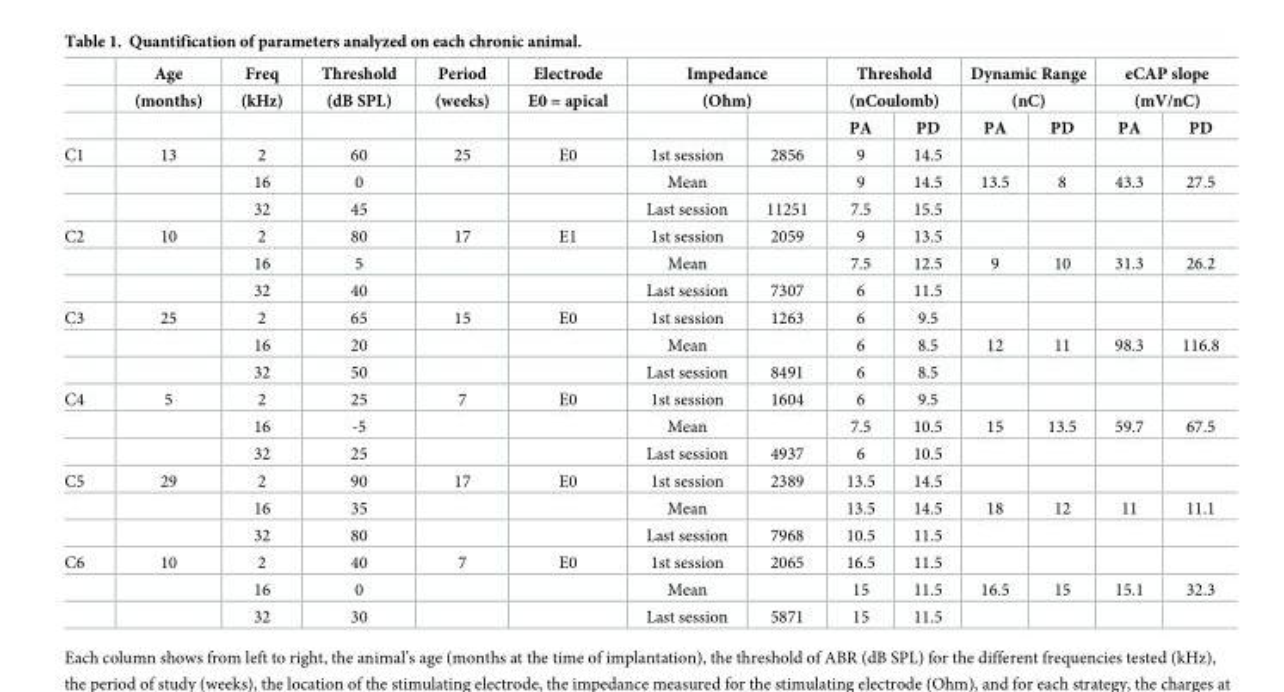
<table><thead><tr><td rowspan="3"></td><td rowspan="3">Age (months)</td><td rowspan="3">Freq (kHz)</td><td rowspan="3">Threshold (dB SPL)</td><td rowspan="3">Period (weeks)</td><td rowspan="3">Electrode E0 = apical</td><td rowspan="2" colspan="2">Impedance (Ohm)</td><td rowspan="2" colspan="2">Threshold (nCoulomb)</td><td rowspan="2" colspan="2">Dynamic Range (nC)</td><td rowspan="2" colspan="2">eCAP slope (mV/nC)</td></tr><tr></tr><tr><td></td><td></td><td>PA</td><td>PD</td><td>PA</td><td>PD</td><td>PA</td><td>PD</td></tr></thead><tbody><tr><td rowspan="3">C1</td><td>13</td><td>2</td><td>60</td><td>25</td><td>E0</td><td>1st session</td><td>2856</td><td>9</td><td>14.5</td><td></td><td></td><td></td><td></td></tr><tr><td></td><td>16</td><td>0</td><td></td><td></td><td>Mean</td><td></td><td>9</td><td>14.5</td><td>13.5</td><td>8</td><td>43.3</td><td>27.5</td></tr><tr><td></td><td>32</td><td>45</td><td></td><td></td><td>Last session</td><td>11251</td><td>7.5</td><td>15.5</td><td></td><td></td><td></td><td></td></tr><tr><td rowspan="3">C2</td><td>10</td><td>2</td><td>80</td><td>17</td><td>E1</td><td>1st session</td><td>2059</td><td>9</td><td>13.5</td><td></td><td></td><td></td><td></td></tr><tr><td></td><td>16</td><td>5</td><td></td><td></td><td>Mean</td><td></td><td>7.5</td><td>12.5</td><td>9</td><td>10</td><td>31.3</td><td>26.2</td></tr><tr><td></td><td>32</td><td>40</td><td></td><td></td><td>Last session</td><td>7307</td><td>6</td><td>11.5</td><td></td><td></td><td></td><td></td></tr><tr><td rowspan="3">C3</td><td>25</td><td>2</td><td>65</td><td>15</td><td>E0</td><td>1st session</td><td>1263</td><td>6</td><td>9.5</td><td></td><td></td><td></td><td></td></tr><tr><td></td><td>16</td><td>20</td><td></td><td></td><td>Mean</td><td></td><td>6</td><td>8.5</td><td>12</td><td>11</td><td>98.3</td><td>116.8</td></tr><tr><td></td><td>32</td><td>50</td><td></td><td></td><td>Last session</td><td>8491</td><td>6</td><td>8.5</td><td></td><td></td><td></td><td></td></tr><tr><td rowspan="3">C4</td><td>5</td><td>2</td><td>25</td><td>7</td><td>E0</td><td>1st session</td><td>1604</td><td>6</td><td>9.5</td><td></td><td></td><td></td><td></td></tr><tr><td></td><td>16</td><td>-5</td><td></td><td></td><td>Mean</td><td></td><td>7.5</td><td>10.5</td><td>15</td><td>13.5</td><td>59.7</td><td>67.5</td></tr><tr><td></td><td>32</td><td>25</td><td></td><td></td><td>Last session</td><td>4937</td><td>6</td><td>10.5</td><td></td><td></td><td></td><td></td></tr><tr><td rowspan="3">C5</td><td>29</td><td>2</td><td>90</td><td>17</td><td>E0</td><td>1st session</td><td>2389</td><td>13.5</td><td>14.5</td><td></td><td></td><td></td><td></td></tr><tr><td></td><td>16</td><td>35</td><td></td><td></td><td>Mean</td><td></td><td>13.5</td><td>14.5</td><td>18</td><td>12</td><td>11</td><td>11.1</td></tr><tr><td></td><td>32</td><td>80</td><td></td><td></td><td>Last session</td><td>7968</td><td>10.5</td><td>11.5</td><td></td><td></td><td></td><td></td></tr><tr><td rowspan="3">C6</td><td>10</td><td>2</td><td>40</td><td>7</td><td>E0</td><td>1st session</td><td>2065</td><td>16.5</td><td>11.5</td><td></td><td></td><td></td><td></td></tr><tr><td></td><td>16</td><td>0</td><td></td><td></td><td>Mean</td><td></td><td>15</td><td>11.5</td><td>16.5</td><td>15</td><td>15.1</td><td>32.3</td></tr><tr><td></td><td>32</td><td>30</td><td></td><td></td><td>Last session</td><td>5871</td><td>15</td><td>11.5</td><td></td><td></td><td></td><td></td></tr></tbody></table>